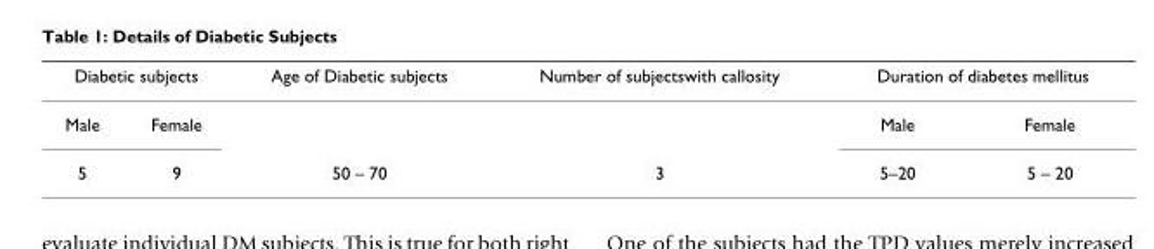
<table><thead><tr><td colspan="2">Diabetic subjects</td><td rowspan="2">Age of Diabetic subjects</td><td rowspan="2">Number of subjectswith callosity</td><td colspan="2">Duration of diabetes mellitus</td></tr><tr><td>Male</td><td>Female</td><td>Male</td><td>Female</td></tr></thead><tbody><tr><td>5</td><td>9</td><td>50 – 70</td><td>3</td><td>5–20</td><td>5 – 20</td></tr></tbody></table>